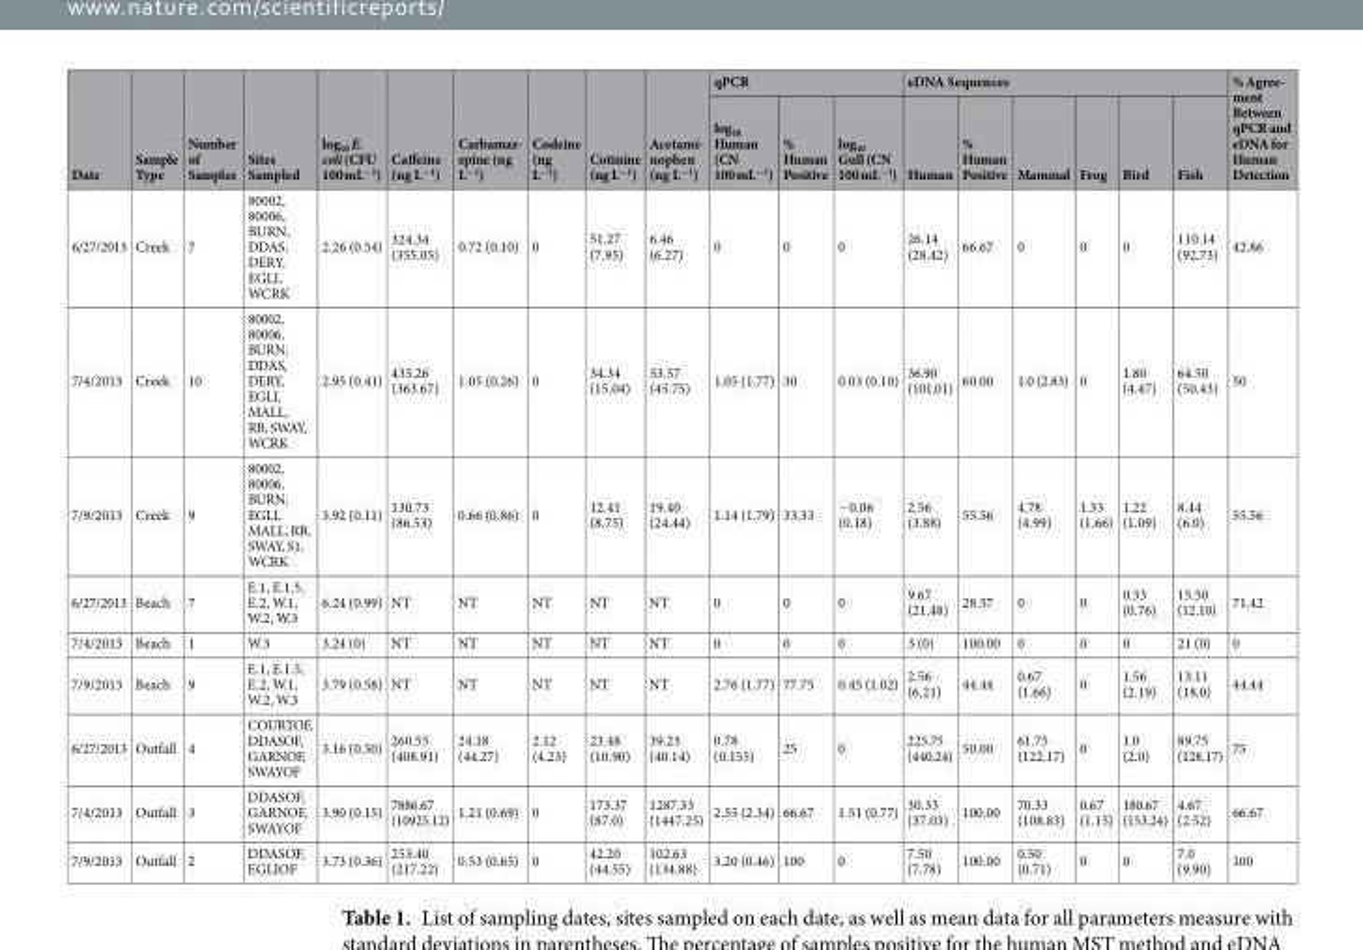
<table><thead><tr><td rowspan="2">Date</td><td rowspan="2">Sample Type</td><td rowspan="2">Number of Samples</td><td rowspan="2">Sites Sampled</td><td rowspan="2">log<sub>10</sub> E. coli (CFU 100 mL<sup>−1</sup>)</td><td rowspan="2">Caffeine (ng L<sup>−1</sup>)</td><td rowspan="2">Carbamaz epine (ng L<sup>−1</sup>)</td><td rowspan="2">Codeine (ng L<sup>−1</sup>)</td><td rowspan="2">Cotinine (ng L<sup>−1</sup>)</td><td rowspan="2">Acetami nophen (ng L<sup>−1</sup>)</td><td colspan="3">qPCR</td><td colspan="6">eDNA Sequences</td><td rowspan="2">% Agree ment Between qPCR and eDNA for Human Detection</td></tr><tr><td>log<sub>10</sub> Human (CN 100 mL<sup>−1</sup>)</td><td>% Human Positive</td><td>log<sub>10</sub> Gull (CN 100 mL<sup>−1</sup>)</td><td>Human</td><td>% Human Positive</td><td>Mammal</td><td>Frog</td><td>Bird</td><td>Fish</td></tr></thead><tbody><tr><td>6/27/2013</td><td>Creek</td><td>7</td><td>80002, 80006, BURN, DDAS, DERY, EGLI, WCRK</td><td>2.26 (0.54)</td><td>324.34 (355.05)</td><td>0.72 (0.10)</td><td>0</td><td>51.27 (7.95)</td><td>6.46 (6.27)</td><td>0</td><td>0</td><td>0</td><td>26.14 (28.42)</td><td>66.67</td><td>0</td><td>0</td><td>0</td><td>110.14 (92.73)</td><td>42.86</td></tr><tr><td>7/4/2013</td><td>Creek</td><td>10</td><td>80002, 80006, BURN, DDAS, DERY, EGLI, MALL, RB, SWAY, WCRK</td><td>2.95 (0.41)</td><td>435.26 (363.67)</td><td>1.05 (0.26)</td><td>0</td><td>34.34 (15.04)</td><td>53.57 (45.75)</td><td>1.05 (1.77)</td><td>30</td><td>0.03 (0.10)</td><td>36.90 (101.01)</td><td>60.00</td><td>1.0 (2.83)</td><td>0</td><td>1.80 (4.47)</td><td>64.50 (50.43)</td><td>50</td></tr><tr><td>7/9/2013</td><td>Creek</td><td>9</td><td>80002, 80006, BURN, EGLI, MALL, RB, SWAY, S1, WCRK</td><td>3.92 (0.11)</td><td>130.73 (86.53)</td><td>0.66 (0.86)</td><td>0</td><td>12.41 (8.75)</td><td>19.40 (24.44)</td><td>1.14 (1.79)</td><td>33.33</td><td>−0.06 (0.18)</td><td>2.56 (3.88)</td><td>55.56</td><td>4.78 (4.99)</td><td>1.33 (1.66)</td><td>1.22 (1.09)</td><td>8.44 (6.0)</td><td>55.56</td></tr><tr><td>6/27/2013</td><td>Beach</td><td>7</td><td>E.1, E.1.5, E.2, W.1, W.2, W.3</td><td>6.24 (0.99)</td><td>NT</td><td>NT</td><td>NT</td><td>NT</td><td>NT</td><td>0</td><td>0</td><td>0</td><td>9.67 (21.48)</td><td>28.57</td><td>0</td><td>0</td><td>0.33 (0.76)</td><td>15.50 (12.10)</td><td>71.42</td></tr><tr><td>7/4/2013</td><td>Beach</td><td>1</td><td>W.3</td><td>3.24 (0)</td><td>NT</td><td>NT</td><td>NT</td><td>NT</td><td>NT</td><td>0</td><td>0</td><td>0</td><td>3 (0)</td><td>100.00</td><td>0</td><td>0</td><td>0</td><td>21 (0)</td><td>0</td></tr><tr><td>7/9/2013</td><td>Beach</td><td>9</td><td>E.1, E.1.5, E.2, W.1, W.2, W.3</td><td>3.79 (0.58)</td><td>NT</td><td>NT</td><td>NT</td><td>NT</td><td>NT</td><td>2.76 (1.77)</td><td>77.75</td><td>0.45 (1.02)</td><td>2.56 (6.21)</td><td>44.44</td><td>0.67 (1.66)</td><td>0</td><td>1.56 (2.19)</td><td>13.11 (18.0)</td><td>44.44</td></tr><tr><td>6/27/2013</td><td>Outfall</td><td>4</td><td>COURTOF, DDASOF, GARNOF, SWAYOF</td><td>3.16 (0.50)</td><td>260.55 (408.91)</td><td>24.18 (44.27)</td><td>2.12 (4.23)</td><td>23.48 (10.90)</td><td>39.23 (40.14)</td><td>0.78 (0.155)</td><td>25</td><td>0</td><td>225.75 (440.24)</td><td>50.00</td><td>61.75 (122.17)</td><td>0</td><td>1.0 (2.0)</td><td>89.75 (128.17)</td><td>75</td></tr><tr><td>7/4/2013</td><td>Outfall</td><td>3</td><td>DDASOF, GARNOF, SWAYOF</td><td>3.90 (0.15)</td><td>7886.67 (10925.12)</td><td>1.21 (0.69)</td><td>0</td><td>173.37 (87.0)</td><td>1287.33 (1447.25)</td><td>2.55 (2.34)</td><td>66.67</td><td>1.51 (0.77)</td><td>30.33 (37.03)</td><td>100.00</td><td>70.33 (108.83)</td><td>0.67 (1.15)</td><td>180.67 (153.24)</td><td>4.67 (2.52)</td><td>66.67</td></tr><tr><td>7/9/2013</td><td>Outfall</td><td>2</td><td>DDASOF, EGLIOF</td><td>3.73 (0.36)</td><td>253.40 (217.22)</td><td>0.53 (0.65)</td><td>0</td><td>42.20 (44.55)</td><td>102.63 (134.88)</td><td>3.20 (0.46)</td><td>100</td><td>0</td><td>7.50 (7.78)</td><td>100.00</td><td>0.50 (0.71)</td><td>0</td><td>0</td><td>7.0 (9.90)</td><td>100</td></tr></tbody></table>